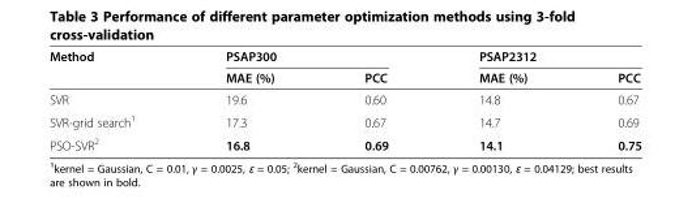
<table><thead><tr><td rowspan="2">Method</td><td colspan="2">PSAP300</td><td colspan="2">PSAP2312</td></tr><tr><td>MAE (%)</td><td>PCC</td><td>MAE (%)</td><td>PCC</td></tr></thead><tbody><tr><td>SVR</td><td>19.6</td><td>0.60</td><td>14.8</td><td>0.67</td></tr><tr><td>SVR-grid search<sup>1</sup></td><td>17.3</td><td>0.67</td><td>14.7</td><td>0.69</td></tr><tr><td>PSO-SVR<sup>2</sup></td><td>16.8</td><td>0.69</td><td>14.1</td><td>0.75</td></tr></tbody></table>